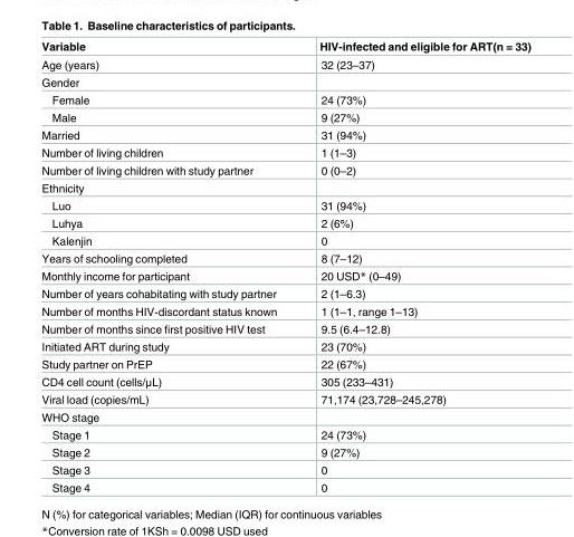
<table><thead><tr><td>Variable</td><td>HIV-infected and eligible for ART(n = 33)</td></tr></thead><tbody><tr><td>Age (years)</td><td>32 (23–37)</td></tr><tr><td colspan="2">Gender</td></tr><tr><td>Female</td><td>24 (73%)</td></tr><tr><td>Male</td><td>9 (27%)</td></tr><tr><td>Married</td><td>31 (94%)</td></tr><tr><td>Number of living children</td><td>1 (1–3)</td></tr><tr><td>Number of living children with study partner</td><td>0 (0–2)</td></tr><tr><td colspan="2">Ethnicity</td></tr><tr><td>Luo</td><td>31 (94%)</td></tr><tr><td>Luhya</td><td>2 (6%)</td></tr><tr><td>Kalenjin</td><td>0</td></tr><tr><td>Years of schooling completed</td><td>8 (7–12)</td></tr><tr><td>Monthly income for participant</td><td>20 USD* (0–49)</td></tr><tr><td>Number of years cohabitating with study partner</td><td>2 (1–6.3)</td></tr><tr><td>Number of months HIV-discordant status known</td><td>1 (1–1, range 1–13)</td></tr><tr><td>Number of months since first positive HIV test</td><td>9.5 (6.4–12.8)</td></tr><tr><td>Initiated ART during study</td><td>23 (70%)</td></tr><tr><td>Study partner on PrEP</td><td>22 (67%)</td></tr><tr><td>CD4 cell count (cells/μL)</td><td>305 (233–431)</td></tr><tr><td>Viral load (copies/mL)</td><td>71,174 (23,728–245,278)</td></tr><tr><td colspan="2">WHO stage</td></tr><tr><td>Stage 1</td><td>24 (73%)</td></tr><tr><td>Stage 2</td><td>9 (27%)</td></tr><tr><td>Stage 3</td><td>0</td></tr><tr><td>Stage 4</td><td>0</td></tr></tbody></table>